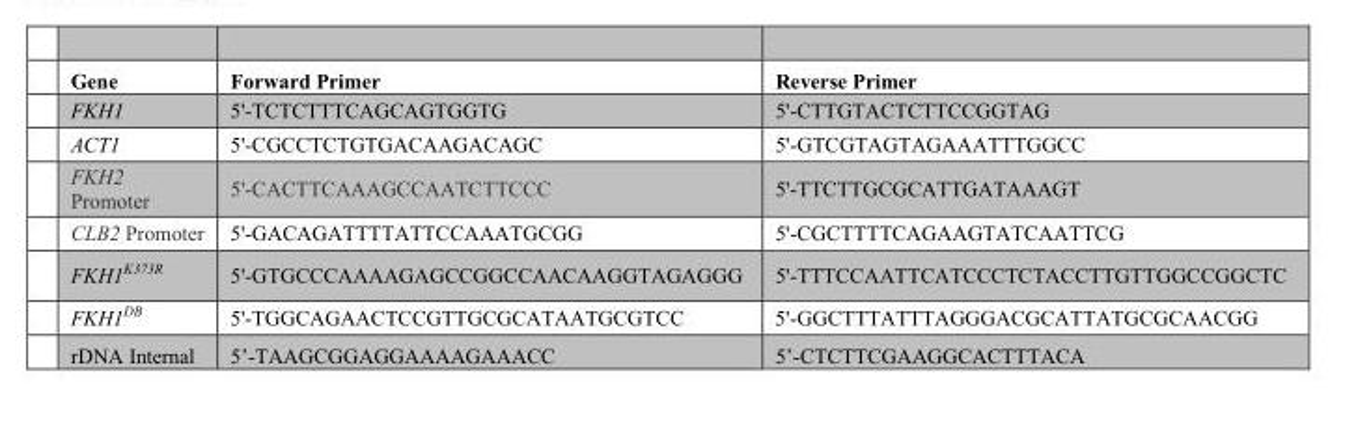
<table><thead><tr><td>Gene</td><td>Forward Primer</td><td>Reverse Primer</td></tr></thead><tbody><tr><td>FKH1</td><td>5&#x27;-TCTCTTTCAGCAGTGGTG</td><td>5&#x27;-CTTGTACTCTTCCGGTAG</td></tr><tr><td>ACT1</td><td>5&#x27;-CGCCTCTGTGACAAGACAGC</td><td>5&#x27;-GTCGTAGTAGAAATTTGGCC</td></tr><tr><td>FKH2 Promoter</td><td>5&#x27;-CACTTCAAAGCCAATCTTCCC</td><td>5&#x27;-TTCTTGCGCATTGATAAAGT</td></tr><tr><td>CLB2 Promoter</td><td>5&#x27;-GACAGATTTTATTCCAAATGCGG</td><td>5&#x27;-CGCTTTTCAGAAGTATCAATTCG</td></tr><tr><td>FKH1<sup>K373R</sup></td><td>5&#x27;-GTGCCCAAAAGAGCCGGCCAACAAGGTAGAGGG</td><td>5&#x27;-TTTCCAATTCATCCCTCTACCTTGTTGGCCGGCTC</td></tr><tr><td>FKH1<sup>DB</sup></td><td>5&#x27;-TGGCAGAACTCCGTTGCGCATAATGCGTCC</td><td>5&#x27;-GGCTTTATTTAGGGACGCATTATGCGCAACGG</td></tr><tr><td>rDNA Internal</td><td>5’-TAAGCGGAGGAAAAGAAACC</td><td>5’-CTCTTCGAAGGCACTTTACA</td></tr></tbody></table>